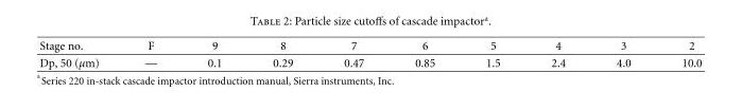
<table><thead><tr><td>Stage no.</td><td>F</td><td>9</td><td>8</td><td>7</td><td>6</td><td>5</td><td>4</td><td>3</td><td>2</td></tr></thead><tbody><tr><td>Dp, 50 (μm)</td><td>—</td><td>0.1</td><td>0.29</td><td>0.47</td><td>0.85</td><td>1.5</td><td>2.4</td><td>4.0</td><td>10.0</td></tr></tbody></table>